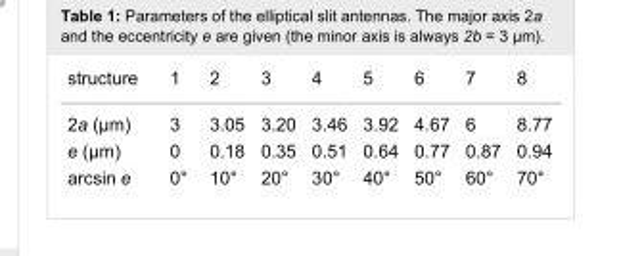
<table><tbody><tr><td>structure</td><td>1</td><td>2</td><td>3</td><td>4</td><td>5</td><td>6</td><td>7</td><td>8</td></tr><tr><td>2a (μm)</td><td>3</td><td>3.05</td><td>3.20</td><td>3.46</td><td>3.92</td><td>4.67</td><td>6</td><td>8.77</td></tr><tr><td>e (μm)</td><td>0</td><td>0.18</td><td>0.35</td><td>0.51</td><td>0.64</td><td>0.77</td><td>0.87</td><td>0.94</td></tr><tr><td>arcsin e</td><td>0°</td><td>10°</td><td>20°</td><td>30°</td><td>40°</td><td>50°</td><td>60°</td><td>70°</td></tr></tbody></table>